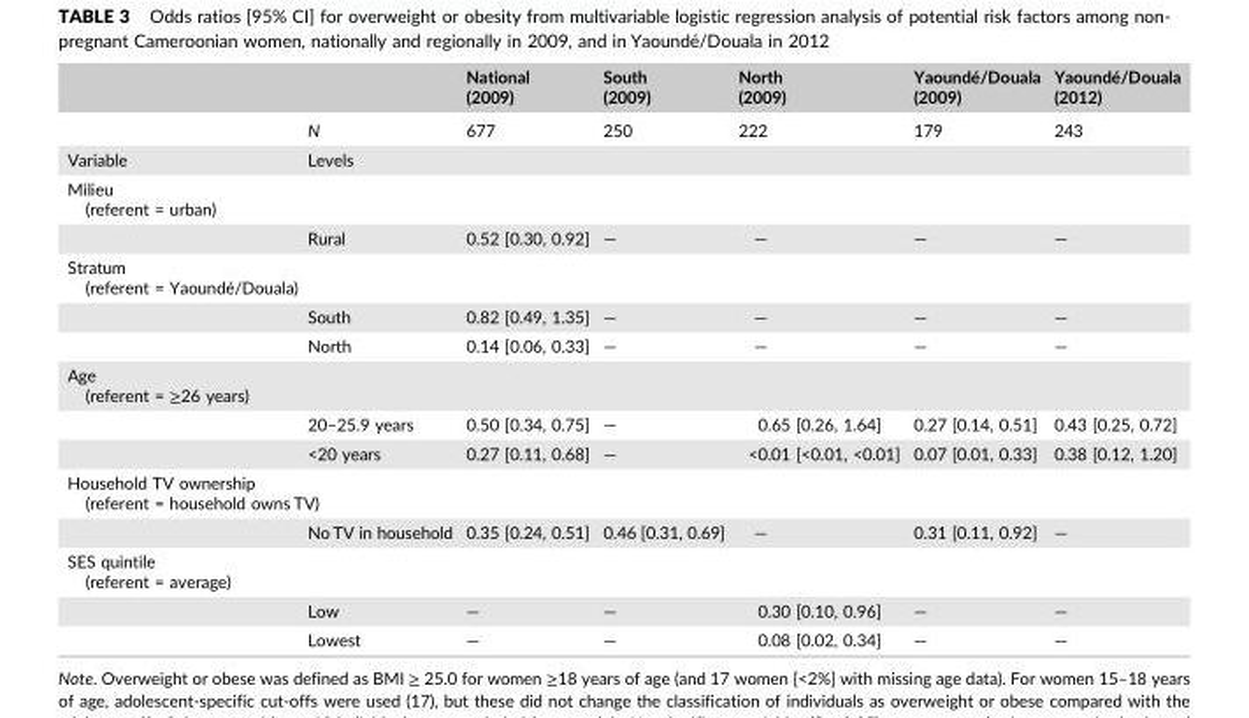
<table><thead><tr><td></td><td></td><td>National (2009)</td><td>South (2009)</td><td>North (2009)</td><td>Yaoundé/Douala (2009)</td><td>Yaoundé/Douala (2012)</td></tr></thead><tbody><tr><td></td><td>N</td><td>677</td><td>250</td><td>222</td><td>179</td><td>243</td></tr><tr><td>Variable</td><td>Levels</td><td></td><td></td><td></td><td></td><td></td></tr><tr><td colspan="7">Milieu (referent = urban)</td></tr><tr><td></td><td>Rural</td><td>0.52 [0.30, 0.92]</td><td>—</td><td>—</td><td>—</td><td>—</td></tr><tr><td colspan="7">Stratum (referent = Yaoundé/Douala)</td></tr><tr><td></td><td>South</td><td>0.82 [0.49, 1.35]</td><td>—</td><td>—</td><td>—</td><td>—</td></tr><tr><td></td><td>North</td><td>0.14 [0.06, 0.33]</td><td>—</td><td>—</td><td>—</td><td>—</td></tr><tr><td colspan="7">Age (referent = ≥26 years)</td></tr><tr><td></td><td>20–25.9 years</td><td>0.50 [0.34, 0.75]</td><td>—</td><td>0.65 [0.26, 1.64]</td><td>0.27 [0.14, 0.51]</td><td>0.43 [0.25, 0.72]</td></tr><tr><td></td><td>&lt;20 years</td><td>0.27 [0.11, 0.68]</td><td>—</td><td>&lt;0.01 [&lt;0.01, &lt;0.01]</td><td>0.07 [0.01, 0.33]</td><td>0.38 [0.12, 1.20]</td></tr><tr><td colspan="7">Household TV ownership (referent = household owns TV)</td></tr><tr><td></td><td>No TV in household</td><td>0.35 [0.24, 0.51]</td><td>0.46 [0.31, 0.69]</td><td>—</td><td>0.31 [0.11, 0.92]</td><td>—</td></tr><tr><td colspan="7">SES quintile (referent = average)</td></tr><tr><td></td><td>Low</td><td>—</td><td>—</td><td>0.30 [0.10, 0.96]</td><td>—</td><td>—</td></tr><tr><td></td><td>Lowest</td><td>—</td><td>—</td><td>0.08 [0.02, 0.34]</td><td>—</td><td>—</td></tr></tbody></table>